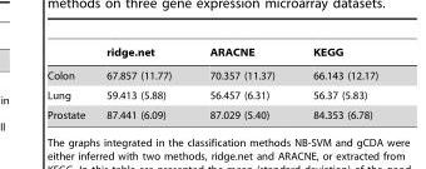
<table><thead><tr><td></td><td>ridge.net</td><td>ARACNE</td><td>KEGG</td></tr></thead><tbody><tr><td>Colon</td><td>67.857 (11.77)</td><td>70.357 (11.37)</td><td>66.143 (12.17)</td></tr><tr><td>Lung</td><td>59.413 (5.88)</td><td>56.457 (6.31)</td><td>56.37 (5.83)</td></tr><tr><td>Prostate</td><td>87.441 (6.09)</td><td>87.029 (5.40)</td><td>84.353 (6.78)</td></tr></tbody></table>